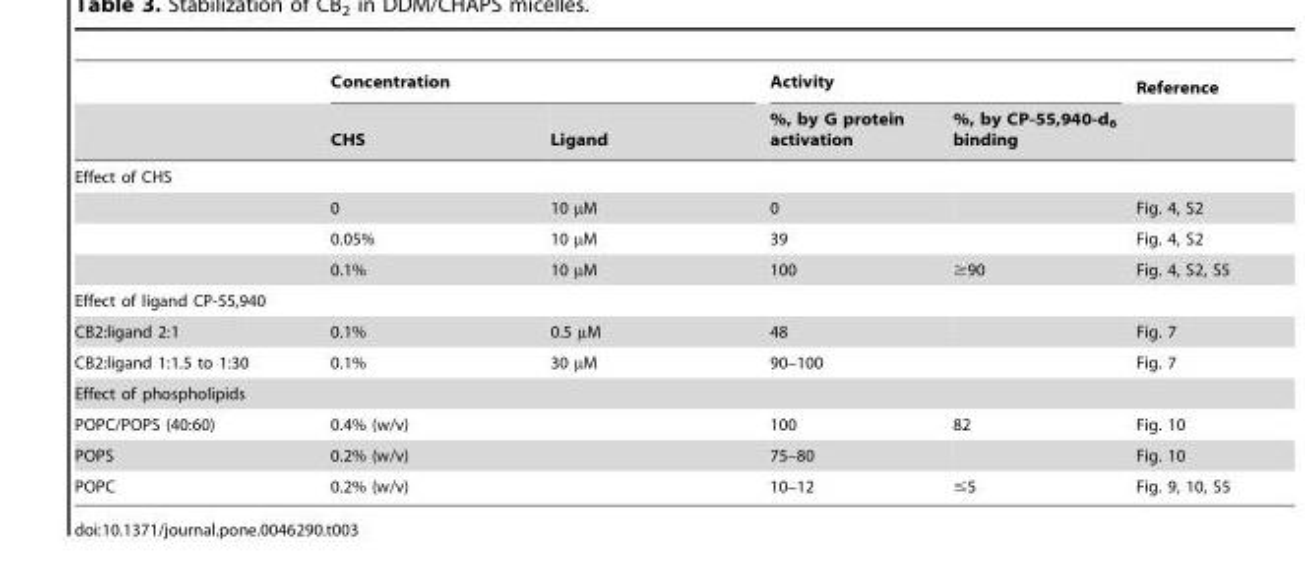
<table><thead><tr><td rowspan="2"></td><td colspan="2">Concentration</td><td colspan="2">Activity</td><td rowspan="2">Reference</td></tr><tr><td>CHS</td><td>Ligand</td><td>%, by G protein activation</td><td>%, by CP-55,940-d<sub>6</sub> binding</td></tr></thead><tbody><tr><td colspan="6">Effect of CHS</td></tr><tr><td></td><td>0</td><td>10 µM</td><td>0</td><td></td><td>Fig. 4, S2</td></tr><tr><td></td><td>0.05%</td><td>10 µM</td><td>39</td><td></td><td>Fig. 4, S2</td></tr><tr><td></td><td>0.1%</td><td>10 µM</td><td>100</td><td>≥90</td><td>Fig. 4, S2, S5</td></tr><tr><td colspan="6">Effect of ligand CP-55,940</td></tr><tr><td>CB2:ligand 2:1</td><td>0.1%</td><td>0.5 µM</td><td>48</td><td></td><td>Fig. 7</td></tr><tr><td>CB2:ligand 1:1.5 to 1:30</td><td>0.1%</td><td>30 µM</td><td>90–100</td><td></td><td>Fig. 7</td></tr><tr><td colspan="6">Effect of phospholipids</td></tr><tr><td>POPC/POPS (40:60)</td><td colspan="2">0.4% (w/v)</td><td>100</td><td>82</td><td>Fig. 10</td></tr><tr><td>POPS</td><td colspan="2">0.2% (w/v)</td><td>75–80</td><td></td><td>Fig. 10</td></tr><tr><td>POPC</td><td colspan="2">0.2% (w/v)</td><td>10–12</td><td>≤5</td><td>Fig. 9, 10, S5</td></tr></tbody></table>